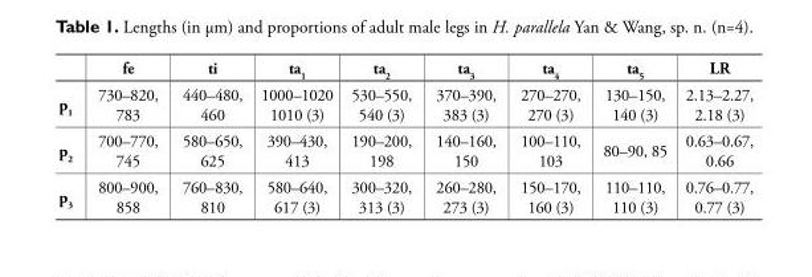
<table><thead><tr><td></td><td>fe</td><td>ti</td><td>ta<sub>1</sub></td><td>ta<sub>2</sub></td><td>ta<sub>3</sub></td><td>ta<sub>4</sub></td><td>ta<sub>5</sub></td><td>LR</td></tr></thead><tbody><tr><td>p<sub>1</sub></td><td>730–820, 783</td><td>440–480, 460</td><td>1000–1020 1010 (3)</td><td>530–550, 540 (3)</td><td>370–390, 383 (3)</td><td>270–270, 270 (3)</td><td>130–150, 140 (3)</td><td>2.13–2.27, 2.18 (3)</td></tr><tr><td>p<sub>2</sub></td><td>700–770, 745</td><td>580–650, 625</td><td>390–430, 413</td><td>190–200, 198</td><td>140–160, 150</td><td>100–110, 103</td><td>80–90, 85</td><td>0.63–0.67, 0.66</td></tr><tr><td>p<sub>3</sub></td><td>800–900, 858</td><td>760–830, 810</td><td>580–640, 617 (3)</td><td>300–320, 313 (3)</td><td>260–280, 273 (3)</td><td>150–170, 160 (3)</td><td>110–110, 110 (3)</td><td>0.76–0.77, 0.77 (3)</td></tr></tbody></table>